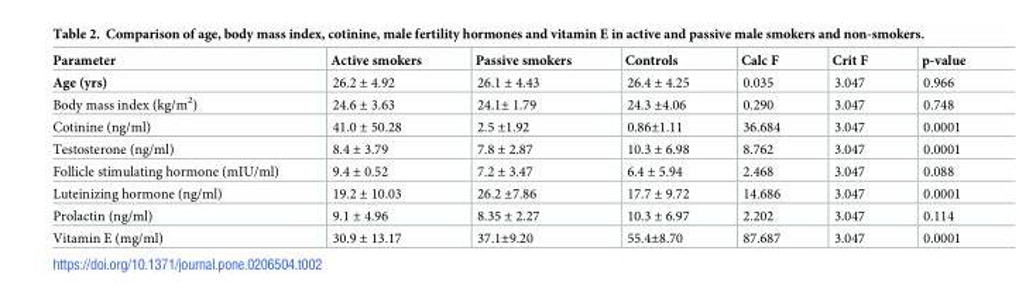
<table><thead><tr><td>Parameter</td><td>Active smokers</td><td>Passive smokers</td><td>Controls</td><td>Calc F</td><td>Crit F</td><td>p-value</td></tr></thead><tbody><tr><td>Age (yrs)</td><td>26.2 ± 4.92</td><td>26.1 ± 4.43</td><td>26.4 ± 4.25</td><td>0.035</td><td>3.047</td><td>0.966</td></tr><tr><td>Body mass index (kg/m<sup>2</sup>)</td><td>24.6 ± 3.63</td><td>24.1± 1.79</td><td>24.3 ±4.06</td><td>0.290</td><td>3.047</td><td>0.748</td></tr><tr><td>Cotinine (ng/ml)</td><td>41.0 ± 50.28</td><td>2.5 ±1.92</td><td>0.86±1.11</td><td>36.684</td><td>3.047</td><td>0.0001</td></tr><tr><td>Testosterone (ng/ml)</td><td>8.4 ± 3.79</td><td>7.8 ± 2.87</td><td>10.3 ± 6.98</td><td>8.762</td><td>3.047</td><td>0.0001</td></tr><tr><td>Follicle stimulating hormone (mIU/ml)</td><td>9.4 ± 0.52</td><td>7.2 ± 3.47</td><td>6.4 ± 5.94</td><td>2.468</td><td>3.047</td><td>0.088</td></tr><tr><td>Luteinizing hormone (ng/ml)</td><td>19.2 ± 10.03</td><td>26.2 ±7.86</td><td>17.7 ± 9.72</td><td>14.686</td><td>3.047</td><td>0.0001</td></tr><tr><td>Prolactin (ng/ml)</td><td>9.1 ± 4.96</td><td>8.35 ± 2.27</td><td>10.3 ± 6.97</td><td>2.202</td><td>3.047</td><td>0.114</td></tr><tr><td>Vitamin E (mg/ml)</td><td>30.9 ± 13.17</td><td>37.1±9.20</td><td>55.4±8.70</td><td>87.687</td><td>3.047</td><td>0.0001</td></tr></tbody></table>